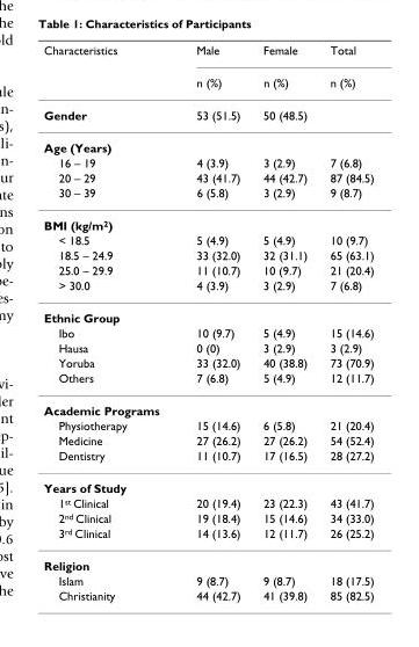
<table><thead><tr><td rowspan="2">Characteristics</td><td rowspan="2">Male n (%)</td><td rowspan="2">Female n (%)</td><td rowspan="2">Total n (%)</td></tr><tr></tr></thead><tbody><tr><td>Gender</td><td>53 (51.5)</td><td>50 (48.5)</td><td></td></tr><tr><td colspan="4">Age (Years)</td></tr><tr><td>16 – 19</td><td>4 (3.9)</td><td>3 (2.9)</td><td>7 (6.8)</td></tr><tr><td>20 – 29</td><td>43 (41.7)</td><td>44 (42.7)</td><td>87 (84.5)</td></tr><tr><td>30 – 39</td><td>6 (5.8)</td><td>3 (2.9)</td><td>9 (8.7)</td></tr><tr><td colspan="4">BMI (kg/m<sup>2</sup>)</td></tr><tr><td>&lt; 18.5</td><td>5 (4.9)</td><td>5 (4.9)</td><td>10 (9.7)</td></tr><tr><td>18.5 – 24.9</td><td>33 (32.0)</td><td>32 (31.1)</td><td>65 (63.1)</td></tr><tr><td>25.0 – 29.9</td><td>11 (10.7)</td><td>10 (9.7)</td><td>21 (20.4)</td></tr><tr><td>&gt; 30.0</td><td>4 (3.9)</td><td>3 (2.9)</td><td>7 (6.8)</td></tr><tr><td colspan="4">Ethnic Group</td></tr><tr><td>Ibo</td><td>10 (9.7)</td><td>5 (4.9)</td><td>15 (14.6)</td></tr><tr><td>Hausa</td><td>0 (0)</td><td>3 (2.9)</td><td>3 (2.9)</td></tr><tr><td>Yoruba</td><td>33 (32.0)</td><td>40 (38.8)</td><td>73 (70.9)</td></tr><tr><td>Others</td><td>7 (6.8)</td><td>5 (4.9)</td><td>12 (11.7)</td></tr><tr><td colspan="4">Academic Programs</td></tr><tr><td>Physiotherapy</td><td>15 (14.6)</td><td>6 (5.8)</td><td>21 (20.4)</td></tr><tr><td>Medicine</td><td>27 (26.2)</td><td>27 (26.2)</td><td>54 (52.4)</td></tr><tr><td>Dentistry</td><td>11 (10.7)</td><td>17 (16.5)</td><td>28 (27.2)</td></tr><tr><td colspan="4">Years of Study</td></tr><tr><td>1<sup>st</sup> Clinical</td><td>20 (19.4)</td><td>23 (22.3)</td><td>43 (41.7)</td></tr><tr><td>2<sup>nd</sup> Clinical</td><td>19 (18.4)</td><td>15 (14.6)</td><td>34 (33.0)</td></tr><tr><td>3<sup>rd</sup> Clinical</td><td>14 (13.6)</td><td>12 (11.7)</td><td>26 (25.2)</td></tr><tr><td colspan="4">Religion</td></tr><tr><td>Islam</td><td>9 (8.7)</td><td>9 (8.7)</td><td>18 (17.5)</td></tr><tr><td>Christianity</td><td>44 (42.7)</td><td>41 (39.8)</td><td>85 (82.5)</td></tr></tbody></table>